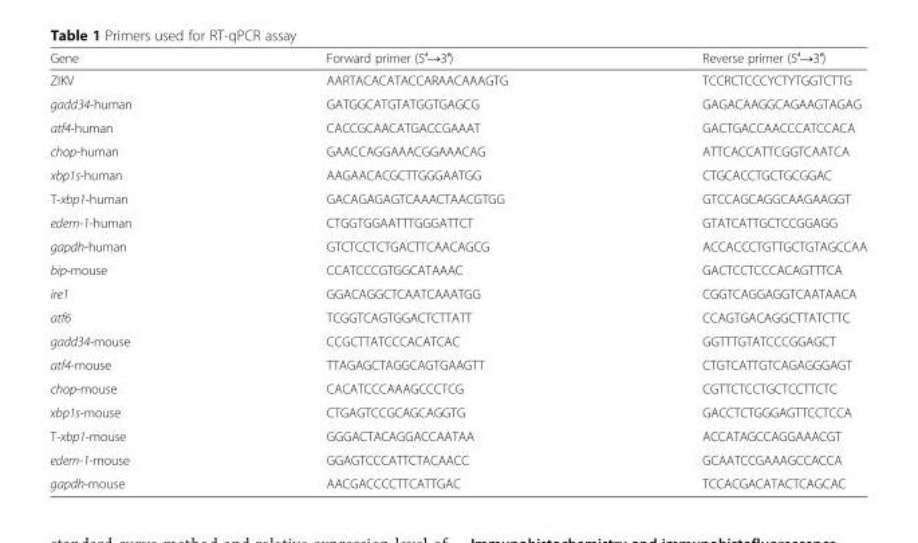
<table><thead><tr><td>Gene</td><td>Forward primer (5′→3′)</td><td>Reverse primer (5′→3′)</td></tr></thead><tbody><tr><td>ZIKV</td><td>AARTACACATACCARAACAAAGTG</td><td>TCCRCTCCCYCTYTGGTCTTG</td></tr><tr><td>gadd34-human</td><td>GATGGCATGTATGGTGAGCG</td><td>GAGACAAGGCAGAAGTAGAG</td></tr><tr><td>atf4-human</td><td>CACCGCAACATGACCGAAAT</td><td>GACTGACCAACCCATCCACA</td></tr><tr><td>chop-human</td><td>GAACCAGGAAACGGAAACAG</td><td>ATTCACCATTCGGTCAATCA</td></tr><tr><td>xbp1s-human</td><td>AAGAACACGCTTGGGAATGG</td><td>CTGCACCTGCTGCGGAC</td></tr><tr><td>T-xbp1-human</td><td>GACAGAGAGTCAAACTAACGTGG</td><td>GTCCAGCAGGCAAGAAGGT</td></tr><tr><td>edem-1-human</td><td>CTGGTGGAATTTGGGATTCT</td><td>GTATCATTGCTCCGGAGG</td></tr><tr><td>gapdh-human</td><td>GTCTCCTCTGACTTCAACAGCG</td><td>ACCACCCTGTTGCTGTAGCCAA</td></tr><tr><td>bip-mouse</td><td>CCATCCCGTGGCATAAAC</td><td>GACTCCTCCCACAGTTTCA</td></tr><tr><td>ire1</td><td>GGACAGGCTCAATCAAATGG</td><td>CGGTCAGGAGGTCAATAACA</td></tr><tr><td>atf6</td><td>TCGGTCAGTGGACTCTTATT</td><td>CCAGTGACAGGCTTATCTTC</td></tr><tr><td>gadd34-mouse</td><td>CCGCTTATCCCACATCAC</td><td>GGTTTGTATCCCGGAGCT</td></tr><tr><td>atf4-mouse</td><td>TTAGAGCTAGGCAGTGAAGTT</td><td>CTGTCATTGTCAGAGGGAGT</td></tr><tr><td>chop-mouse</td><td>CACATCCCAAAGCCCTCG</td><td>CGTTCTCCTGCTCCTTCTC</td></tr><tr><td>xbp1s-mouse</td><td>CTGAGTCCGCAGCAGGTG</td><td>GACCTCTGGGAGTTCCTCCA</td></tr><tr><td>T-xbp1-mouse</td><td>GGGACTACAGGACCAATAA</td><td>ACCATAGCCAGGAAACGT</td></tr><tr><td>edem-1-mouse</td><td>GGAGTCCCATTCTACAACC</td><td>GCAATCCGAAAGCCACCA</td></tr><tr><td>gapdh-mouse</td><td>AACGACCCCTTCATTGAC</td><td>TCCACGACATACTCAGCAC</td></tr></tbody></table>